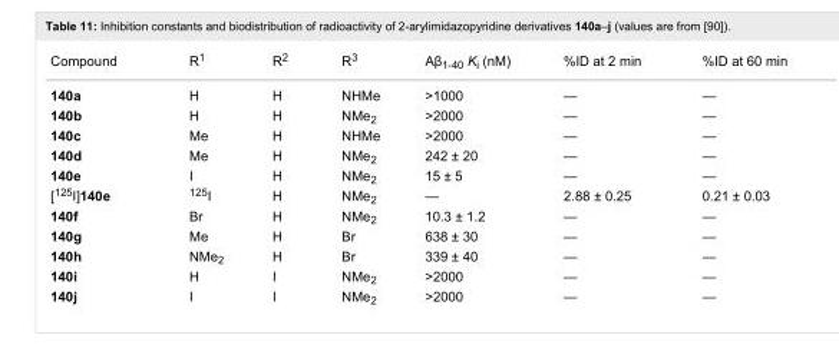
<table><tbody><tr><td>Compound</td><td>R<sup>1</sup></td><td>R<sup>2</sup></td><td>R<sup>3</sup></td><td>Aβ<sub>1-40</sub> K<sub>i</sub> (nM)</td><td>%ID at 2 min</td><td>%ID at 60 min</td></tr><tr><td>140a</td><td>H</td><td>H</td><td>NHMe</td><td>&gt;1000</td><td>—</td><td>—</td></tr><tr><td>140b</td><td>H</td><td>H</td><td>NMe<sub>2</sub></td><td>&gt;2000</td><td>—</td><td>—</td></tr><tr><td>140c</td><td>Me</td><td>H</td><td>NHMe</td><td>&gt;2000</td><td>—</td><td>—</td></tr><tr><td>140d</td><td>Me</td><td>H</td><td>NMe<sub>2</sub></td><td>242 ± 20</td><td>—</td><td>—</td></tr><tr><td>140e</td><td>I</td><td>H</td><td>NMe<sub>2</sub></td><td>15 ± 5</td><td>—</td><td>—</td></tr><tr><td>[<sup>125</sup>I]140e</td><td><sup>125</sup>I</td><td>H</td><td>NMe<sub>2</sub></td><td>—</td><td>2.88 ± 0.25</td><td>0.21 ± 0.03</td></tr><tr><td>140f</td><td>Br</td><td>H</td><td>NMe<sub>2</sub></td><td>10.3 ± 1.2</td><td>—</td><td>—</td></tr><tr><td>140g</td><td>Me</td><td>H</td><td>Br</td><td>638 ± 30</td><td>—</td><td>—</td></tr><tr><td>140h</td><td>NMe<sub>2</sub></td><td>H</td><td>Br</td><td>339 ± 40</td><td>—</td><td>—</td></tr><tr><td>140i</td><td>H</td><td>I</td><td>NMe<sub>2</sub></td><td>&gt;2000</td><td>—</td><td>—</td></tr><tr><td>140j</td><td>I</td><td>I</td><td>NMe<sub>2</sub></td><td>&gt;2000</td><td>—</td><td>—</td></tr></tbody></table>